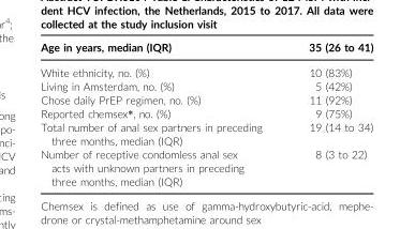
<table><thead><tr><td>Age in years, median (IQR)</td><td>35 (26 to 41)</td></tr></thead><tbody><tr><td>White ethnicity, no. (%)</td><td>10 (83%)</td></tr><tr><td>Living in Amsterdam, no. (%)</td><td>5 (42%)</td></tr><tr><td>Chose daily PrEP regimen, no. (%)</td><td>11 (92%)</td></tr><tr><td>Reported chemsex*, no. (%)</td><td>9 (75%)</td></tr><tr><td>Total number of anal sex partners in preceding three months, median (IQR)</td><td>19 (14 to 34)</td></tr><tr><td>Number of receptive condomless anal sex acts with unknown partners in preceding three months, median (IQR)</td><td>8 (3 to 22)</td></tr></tbody></table>